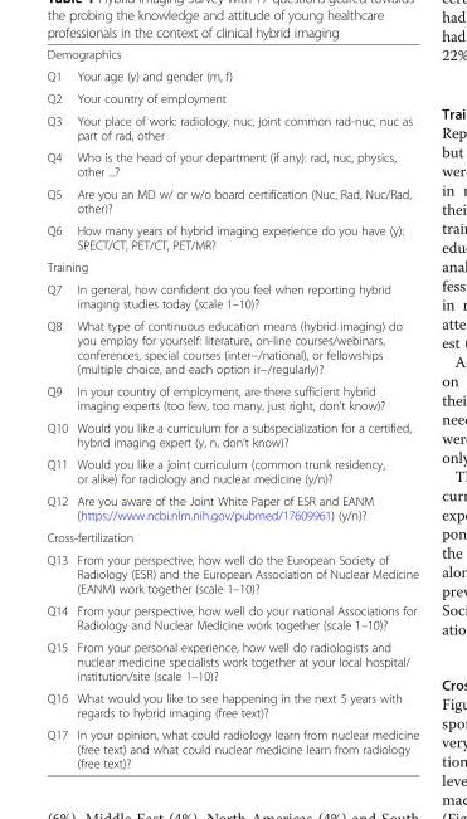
<table><tbody><tr><td colspan="2">Demographics</td></tr><tr><td>Q1</td><td>Your age (y) and gender (m, f)</td></tr><tr><td>Q2</td><td>Your country of employment</td></tr><tr><td>Q3</td><td>Your place of work: radiology, nuc, joint common rad-nuc, nuc as part of rad, other</td></tr><tr><td>Q4</td><td>Who is the head of your department (if any): rad, nuc, physics, other ...?</td></tr><tr><td>Q5</td><td>Are you an MD w/ or w/o board certification (Nuc, Rad, Nuc/Rad, other)?</td></tr><tr><td>Q6</td><td>How many years of hybrid imaging experience do you have (y): SPECT/CT, PET/CT, PET/MR?</td></tr><tr><td colspan="2">Training</td></tr><tr><td>Q7</td><td>In general, how confident do you feel when reporting hybrid imaging studies today (scale 1–10)?</td></tr><tr><td>Q8</td><td>What type of continuous education means (hybrid imaging) do you employ for yourself: literature, on-line courses/webinars, conferences, special courses (inter−/national), or fellowships (multiple choice, and each option ir−/regularly)?</td></tr><tr><td>Q9</td><td>In your country of employment, are there sufficient hybrid imaging experts (too few, too many, just right, don’t know)?</td></tr><tr><td>Q10</td><td>Would you like a curriculum for a subspecialization for a certified, hybrid imaging expert (y, n, don’t know)?</td></tr><tr><td>Q11</td><td>Would you like a joint curriculum (common trunk residency, or alike) for radiology and nuclear medicine (y/n)?</td></tr><tr><td>Q12</td><td>Are you aware of the Joint White Paper of ESR and EANM (https://www.ncbi.nlm.nih.gov/pubmed/17609961) (y/n)?</td></tr><tr><td colspan="2">Cross-fertilization</td></tr><tr><td>Q13</td><td>From your perspective, how well do the European Society of Radiology (ESR) and the European Association of Nuclear Medicine (EANM) work together (scale 1–10)?</td></tr><tr><td>Q14</td><td>From your perspective, how well do your national Associations for Radiology and Nuclear Medicine work together (scale 1–10)?</td></tr><tr><td>Q15</td><td>From your personal experience, how well do radiologists and nuclear medicine specialists work together at your local hospital/ institution/site (scale 1–10)?</td></tr><tr><td>Q16</td><td>What would you like to see happening in the next 5 years with regards to hybrid imaging (free text)?</td></tr><tr><td>Q17</td><td>In your opinion, what could radiology learn from nuclear medicine (free text) and what could nuclear medicine learn from radiology (free text)?</td></tr></tbody></table>